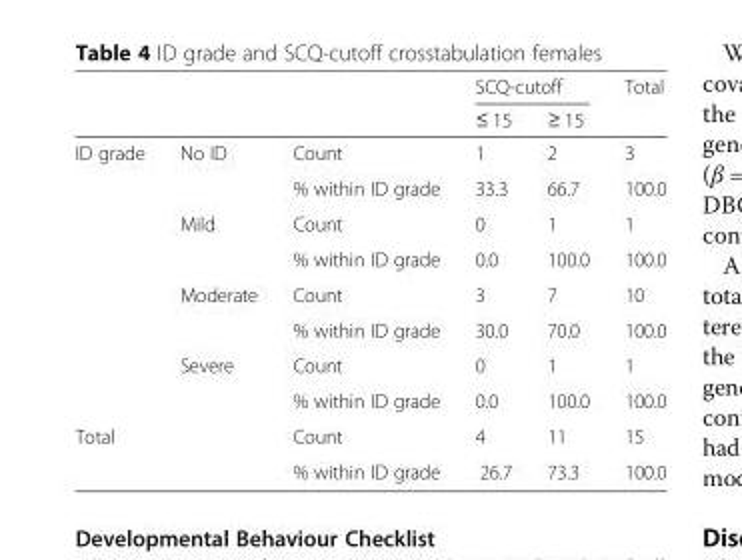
<table><thead><tr><td rowspan="2"></td><td rowspan="2"></td><td rowspan="2"></td><td colspan="2">SCQ-cutoff</td><td rowspan="2">Total</td></tr><tr><td>≤ 15</td><td>≥ 15</td></tr></thead><tbody><tr><td rowspan="8">ID grade</td><td rowspan="2">No ID</td><td>Count</td><td>1</td><td>2</td><td>3</td></tr><tr><td>% within ID grade</td><td>33.3</td><td>66.7</td><td>100.0</td></tr><tr><td rowspan="2">Mild</td><td>Count</td><td>0</td><td>1</td><td>1</td></tr><tr><td>% within ID grade</td><td>0.0</td><td>100.0</td><td>100.0</td></tr><tr><td rowspan="2">Moderate</td><td>Count</td><td>3</td><td>7</td><td>10</td></tr><tr><td>% within ID grade</td><td>30.0</td><td>70.0</td><td>100.0</td></tr><tr><td rowspan="2">Severe</td><td>Count</td><td>0</td><td>1</td><td>1</td></tr><tr><td>% within ID grade</td><td>0.0</td><td>100.0</td><td>100.0</td></tr><tr><td rowspan="2" colspan="2">Total</td><td>Count</td><td>4</td><td>11</td><td>15</td></tr><tr><td>% within ID grade</td><td>26.7</td><td>73.3</td><td>100.0</td></tr></tbody></table>